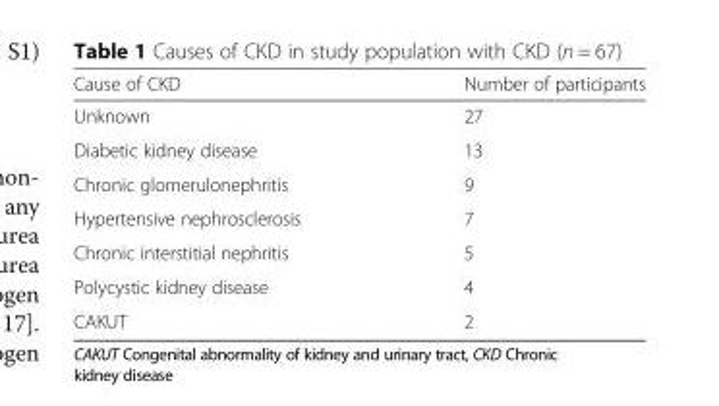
<table><thead><tr><td>Cause of CKD</td><td>Number of participants</td></tr></thead><tbody><tr><td>Unknown</td><td>27</td></tr><tr><td>Diabetic kidney disease</td><td>13</td></tr><tr><td>Chronic glomerulonephritis</td><td>9</td></tr><tr><td>Hypertensive nephrosclerosis</td><td>7</td></tr><tr><td>Chronic interstitial nephritis</td><td>5</td></tr><tr><td>Polycystic kidney disease</td><td>4</td></tr><tr><td>CAKUT</td><td>2</td></tr></tbody></table>